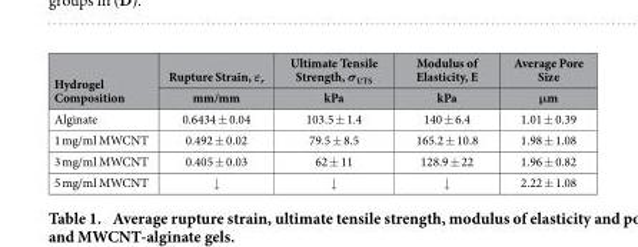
<table><thead><tr><td rowspan="2">Hydrogel Composition</td><td rowspan="2">Rupture Strain, ε<sub>r</sub> mm/mm</td><td rowspan="2">Ultimate Tensile Strength, σ<sub>UTS</sub> kPa</td><td rowspan="2">Modulus of Elasticity, E kPa</td><td rowspan="2">Average Pore Size μm</td></tr><tr></tr></thead><tbody><tr><td>Alginate</td><td>0.6434 ± 0.04</td><td>103.5 ± 1.4</td><td>140 ± 6.4</td><td>1.01 ± 0.39</td></tr><tr><td>1 mg/ml MWCNT</td><td>0.492 ± 0.02</td><td>79.5 ± 8.5</td><td>165.2 ± 10.8</td><td>1.98 ± 1.08</td></tr><tr><td>3 mg/ml MWCNT</td><td>0.405 ± 0.03</td><td>62 ± 11</td><td>128.9 ± 22</td><td>1.96 ± 0.82</td></tr><tr><td>5 mg/ml MWCNT</td><td>↓</td><td>↓</td><td>↓</td><td>2.22 ± 1.08</td></tr></tbody></table>